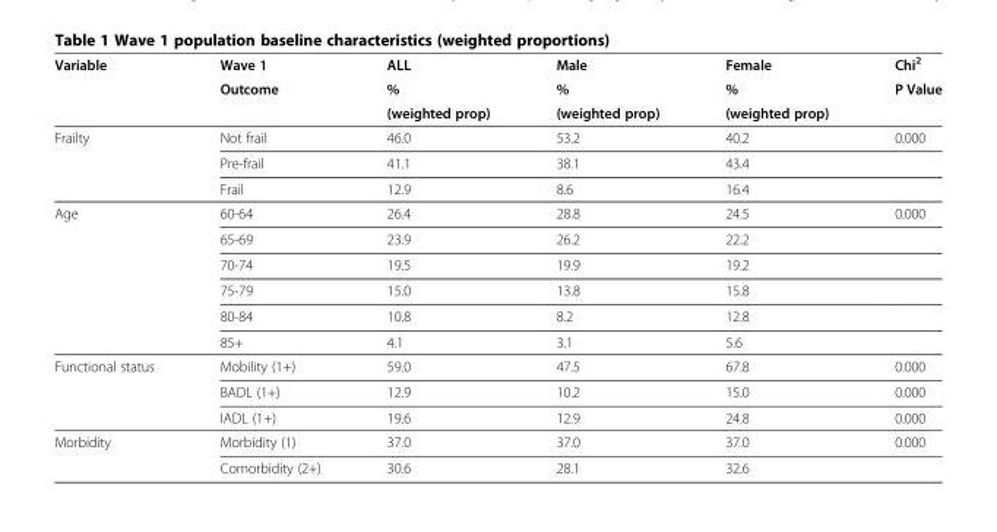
<table><thead><tr><td rowspan="3">Variable</td><td rowspan="3">Wave 1 Outcome</td><td rowspan="3">ALL % (weighted prop)</td><td rowspan="3">Male % (weighted prop)</td><td rowspan="3">Female % (weighted prop)</td><td rowspan="3">Chi<sup>2</sup> P Value</td></tr><tr></tr><tr></tr></thead><tbody><tr><td rowspan="3">Frailty</td><td>Not frail</td><td>46.0</td><td>53.2</td><td>40.2</td><td>0.000</td></tr><tr><td>Pre-frail</td><td>41.1</td><td>38.1</td><td>43.4</td><td></td></tr><tr><td>Frail</td><td>12.9</td><td>8.6</td><td>16.4</td><td></td></tr><tr><td rowspan="6">Age</td><td>60-64</td><td>26.4</td><td>28.8</td><td>24.5</td><td>0.000</td></tr><tr><td>65-69</td><td>23.9</td><td>26.2</td><td>22.2</td><td></td></tr><tr><td>70-74</td><td>19.5</td><td>19.9</td><td>19.2</td><td></td></tr><tr><td>75-79</td><td>15.0</td><td>13.8</td><td>15.8</td><td></td></tr><tr><td>80-84</td><td>10.8</td><td>8.2</td><td>12.8</td><td></td></tr><tr><td>85+</td><td>4.1</td><td>3.1</td><td>5.6</td><td></td></tr><tr><td rowspan="3">Functional status</td><td>Mobility (1+)</td><td>59.0</td><td>47.5</td><td>67.8</td><td>0.000</td></tr><tr><td>BADL (1+)</td><td>12.9</td><td>10.2</td><td>15.0</td><td>0.000</td></tr><tr><td>IADL (1+)</td><td>19.6</td><td>12.9</td><td>24.8</td><td>0.000</td></tr><tr><td rowspan="2">Morbidity</td><td>Morbidity (1)</td><td>37.0</td><td>37.0</td><td>37.0</td><td>0.000</td></tr><tr><td>Comorbidity (2+)</td><td>30.6</td><td>28.1</td><td>32.6</td><td></td></tr></tbody></table>